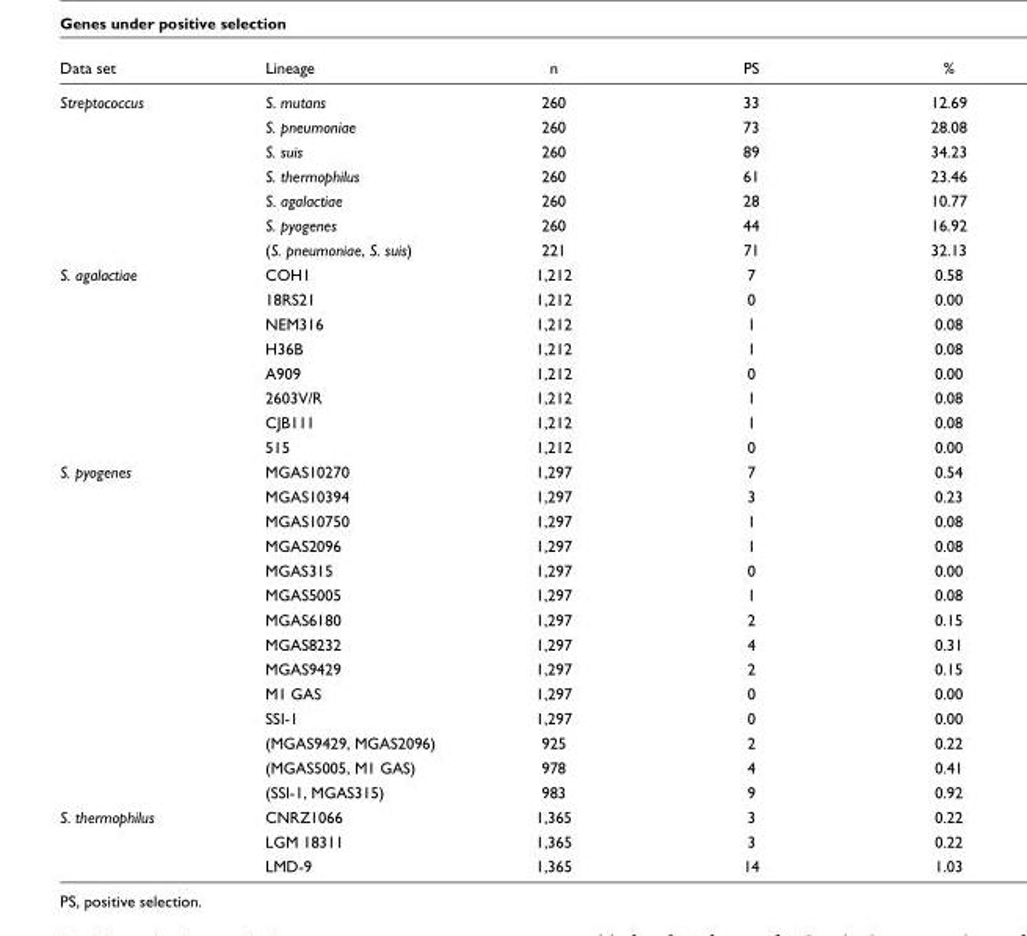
<table><thead><tr><td>Data set</td><td>Lineage</td><td>n</td><td>PS</td><td>%</td></tr></thead><tbody><tr><td rowspan="7">Streptococcus</td><td>S. mutans</td><td>260</td><td>33</td><td>12.69</td></tr><tr><td>S. pneumoniae</td><td>260</td><td>73</td><td>28.08</td></tr><tr><td>S. suis</td><td>260</td><td>89</td><td>34.23</td></tr><tr><td>S. thermophilus</td><td>260</td><td>61</td><td>23.46</td></tr><tr><td>S. agalactiae</td><td>260</td><td>28</td><td>10.77</td></tr><tr><td>S. pyogenes</td><td>260</td><td>44</td><td>16.92</td></tr><tr><td>(S. pneumoniae, S. suis)</td><td>221</td><td>71</td><td>32.13</td></tr><tr><td rowspan="8">S. agalactiae</td><td>COH1</td><td>1,212</td><td>7</td><td>0.58</td></tr><tr><td>18RS21</td><td>1,212</td><td>0</td><td>0.00</td></tr><tr><td>NEM316</td><td>1,212</td><td>1</td><td>0.08</td></tr><tr><td>H36B</td><td>1,212</td><td>1</td><td>0.08</td></tr><tr><td>A909</td><td>1,212</td><td>0</td><td>0.00</td></tr><tr><td>2603V/R</td><td>1,212</td><td>1</td><td>0.08</td></tr><tr><td>CJB111</td><td>1,212</td><td>1</td><td>0.08</td></tr><tr><td>515</td><td>1,212</td><td>0</td><td>0.00</td></tr><tr><td rowspan="14">S. pyogenes</td><td>MGAS10270</td><td>1,297</td><td>7</td><td>0.54</td></tr><tr><td>MGAS10394</td><td>1,297</td><td>3</td><td>0.23</td></tr><tr><td>MGAS10750</td><td>1,297</td><td>1</td><td>0.08</td></tr><tr><td>MGAS2096</td><td>1,297</td><td>1</td><td>0.08</td></tr><tr><td>MGAS315</td><td>1,297</td><td>0</td><td>0.00</td></tr><tr><td>MGAS5005</td><td>1,297</td><td>1</td><td>0.08</td></tr><tr><td>MGAS6180</td><td>1,297</td><td>2</td><td>0.15</td></tr><tr><td>MGAS8232</td><td>1,297</td><td>4</td><td>0.31</td></tr><tr><td>MGAS9429</td><td>1,297</td><td>2</td><td>0.15</td></tr><tr><td>M1 GAS</td><td>1,297</td><td>0</td><td>0.00</td></tr><tr><td>SSI-1</td><td>1,297</td><td>0</td><td>0.00</td></tr><tr><td>(MGAS9429, MGAS2096)</td><td>925</td><td>2</td><td>0.22</td></tr><tr><td>(MGAS5005, M1 GAS)</td><td>978</td><td>4</td><td>0.41</td></tr><tr><td>(SSI-1, MGAS315)</td><td>983</td><td>9</td><td>0.92</td></tr><tr><td rowspan="3">S. thermophilus</td><td>CNRZ1066</td><td>1,365</td><td>3</td><td>0.22</td></tr><tr><td>LGM 18311</td><td>1,365</td><td>3</td><td>0.22</td></tr><tr><td>LMD-9</td><td>1,365</td><td>14</td><td>1.03</td></tr></tbody></table>